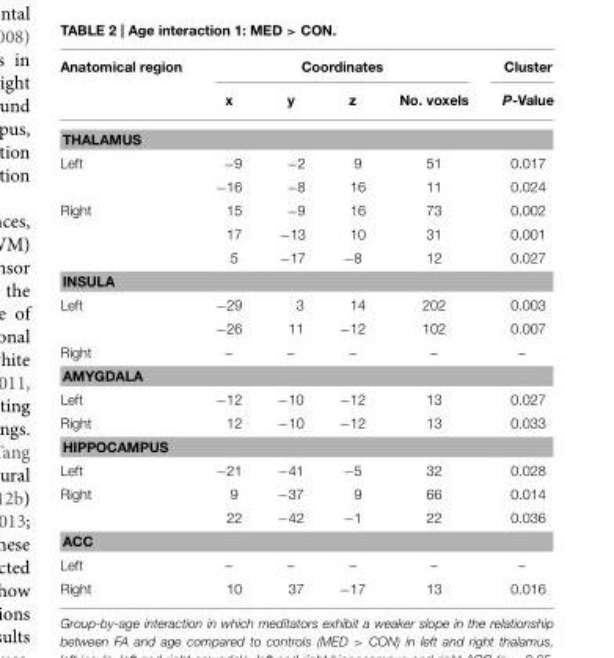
<table><thead><tr><td rowspan="2">Anatomical region</td><td colspan="4">Coordinates</td><td rowspan="2">Cluster P-Value</td></tr><tr><td>x</td><td>y</td><td>z</td><td>No. voxels</td></tr></thead><tbody><tr><td colspan="6">THALAMUS</td></tr><tr><td rowspan="2">Left</td><td>−9</td><td>−2</td><td>9</td><td>51</td><td>0.017</td></tr><tr><td>−16</td><td>−8</td><td>16</td><td>11</td><td>0.024</td></tr><tr><td rowspan="3">Right</td><td>15</td><td>−9</td><td>16</td><td>73</td><td>0.002</td></tr><tr><td>17</td><td>−13</td><td>10</td><td>31</td><td>0.001</td></tr><tr><td>5</td><td>−17</td><td>−8</td><td>12</td><td>0.027</td></tr><tr><td colspan="6">INSULA</td></tr><tr><td rowspan="2">Left</td><td>−29</td><td>3</td><td>14</td><td>202</td><td>0.003</td></tr><tr><td>−26</td><td>11</td><td>−12</td><td>102</td><td>0.007</td></tr><tr><td>Right</td><td>–</td><td>–</td><td>–</td><td>–</td><td>–</td></tr><tr><td colspan="6">AMYGDALA</td></tr><tr><td>Left</td><td>−12</td><td>−10</td><td>−12</td><td>13</td><td>0.027</td></tr><tr><td>Right</td><td>12</td><td>−10</td><td>−12</td><td>13</td><td>0.033</td></tr><tr><td colspan="6">HIPPOCAMPUS</td></tr><tr><td>Left</td><td>−21</td><td>−41</td><td>−5</td><td>32</td><td>0.028</td></tr><tr><td rowspan="2">Right</td><td>9</td><td>−37</td><td>9</td><td>66</td><td>0.014</td></tr><tr><td>22</td><td>−42</td><td>−1</td><td>22</td><td>0.036</td></tr><tr><td colspan="6">ACC</td></tr><tr><td>Left</td><td>–</td><td>–</td><td>–</td><td>–</td><td>–</td></tr><tr><td>Right</td><td>10</td><td>37</td><td>−17</td><td>13</td><td>0.016</td></tr></tbody></table>